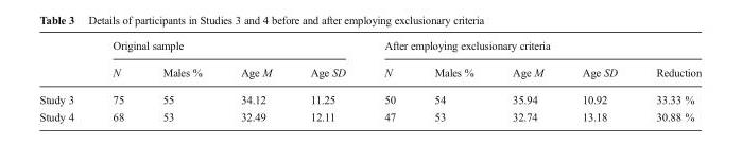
<table><thead><tr><td rowspan="2"></td><td colspan="4">Original sample</td><td colspan="5">After employing exclusionary criteria</td></tr><tr><td>N</td><td>Males %</td><td>Age M</td><td>Age SD</td><td>N</td><td>Males %</td><td>Age M</td><td>Age SD</td><td>Reduction</td></tr></thead><tbody><tr><td>Study 3</td><td>75</td><td>55</td><td>34.12</td><td>11.25</td><td>50</td><td>54</td><td>35.94</td><td>10.92</td><td>33.33 %</td></tr><tr><td>Study 4</td><td>68</td><td>53</td><td>32.49</td><td>12.11</td><td>47</td><td>53</td><td>32.74</td><td>13.18</td><td>30.88 %</td></tr></tbody></table>